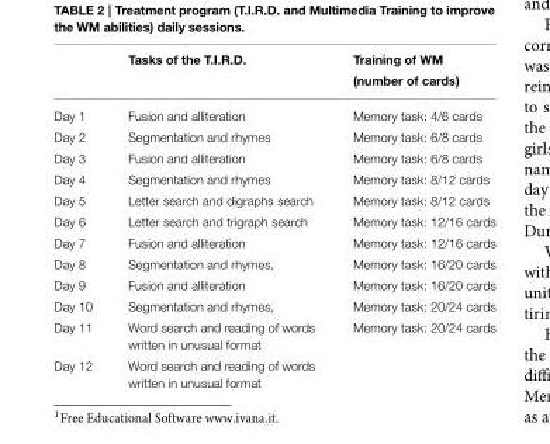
<table><thead><tr><td></td><td>Tasks of the T.I.R.D.</td><td>Training of WM (number of cards)</td></tr></thead><tbody><tr><td>Day 1</td><td>Fusion and alliteration</td><td>Memory task: 4/6 cards</td></tr><tr><td>Day 2</td><td>Segmentation and rhymes</td><td>Memory task: 6/8 cards</td></tr><tr><td>Day 3</td><td>Fusion and alliteration</td><td>Memory task: 6/8 cards</td></tr><tr><td>Day 4</td><td>Segmentation and rhymes</td><td>Memory task: 8/12 cards</td></tr><tr><td>Day 5</td><td>Letter search and digraphs search</td><td>Memory task: 8/12 cards</td></tr><tr><td>Day 6</td><td>Letter search and trigraph search</td><td>Memory task: 12/16 cards</td></tr><tr><td>Day 7</td><td>Fusion and alliteration</td><td>Memory task: 12/16 cards</td></tr><tr><td>Day 8</td><td>Segmentation and rhymes,</td><td>Memory task: 16/20 cards</td></tr><tr><td>Day 9</td><td>Fusion and alliteration</td><td>Memory task: 16/20 cards</td></tr><tr><td>Day 10</td><td>Segmentation and rhymes,</td><td>Memory task: 20/24 cards</td></tr><tr><td>Day 11</td><td>Word search and reading of words written in unusual format</td><td>Memory task: 20/24 cards</td></tr><tr><td>Day 12</td><td>Word search and reading of words written in unusual format</td><td></td></tr></tbody></table>